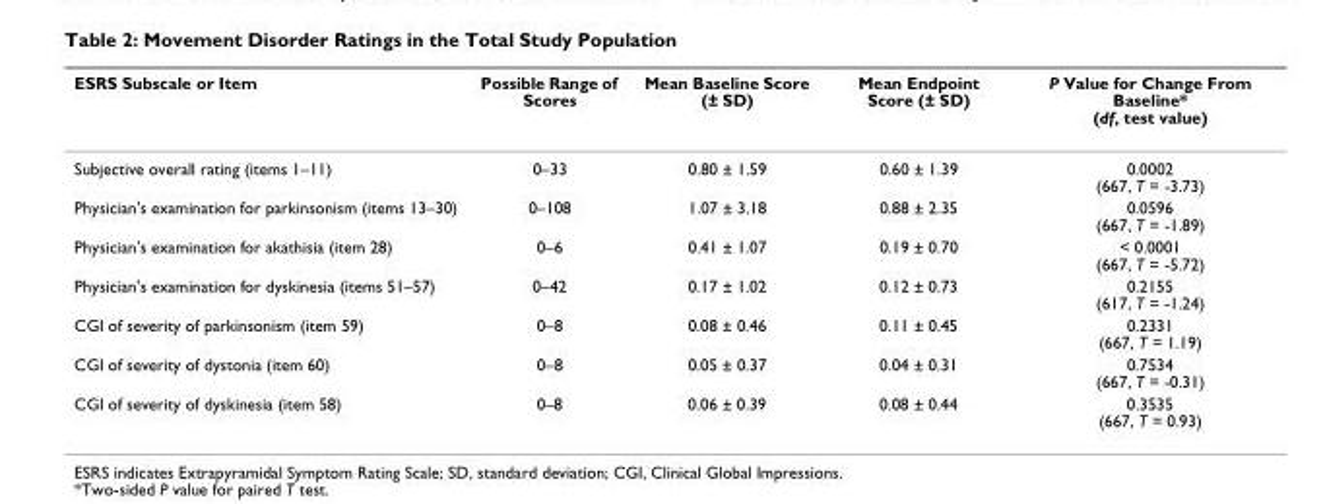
<table><thead><tr><td>ESRS Subscale or Item</td><td>Possible Range of Scores</td><td>Mean Baseline Score (± SD)</td><td>Mean Endpoint Score (± SD)</td><td>P Value for Change From Baseline* (df, test value)</td></tr></thead><tbody><tr><td>Subjective overall rating (items 1–11)</td><td>0–33</td><td>0.80 ± 1.59</td><td>0.60 ± 1.39</td><td>0.0002 (667, T = -3.73)</td></tr><tr><td>Physician&#x27;s examination for parkinsonism (items 13–30)</td><td>0–108</td><td>1.07 ± 3.18</td><td>0.88 ± 2.35</td><td>0.0596 (667, T = -1.89)</td></tr><tr><td>Physician&#x27;s examination for akathisia (item 28)</td><td>0–6</td><td>0.41 ± 1.07</td><td>0.19 ± 0.70</td><td>&lt; 0.0001 (667, T = -5.72)</td></tr><tr><td>Physician&#x27;s examination for dyskinesia (items 51–57)</td><td>0–42</td><td>0.17 ± 1.02</td><td>0.12 ± 0.73</td><td>0.2155 (617, T = -1.24)</td></tr><tr><td>CGI of severity of parkinsonism (item 59)</td><td>0–8</td><td>0.08 ± 0.46</td><td>0.11 ± 0.45</td><td>0.2331 (667, T = 1.19)</td></tr><tr><td>CGI of severity of dystonia (item 60)</td><td>0–8</td><td>0.05 ± 0.37</td><td>0.04 ± 0.31</td><td>0.7534 (667, T = -0.31)</td></tr><tr><td>CGI of severity of dyskinesia (item 58)</td><td>0–8</td><td>0.06 ± 0.39</td><td>0.08 ± 0.44</td><td>0.3535 (667, T = 0.93)</td></tr></tbody></table>